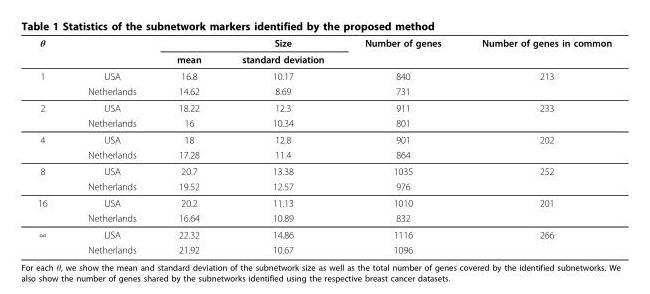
<table><thead><tr><td rowspan="2">θ</td><td rowspan="2"></td><td rowspan="2">mean</td><td rowspan="2">Size standard deviation</td><td rowspan="2">Number of genes</td><td rowspan="2">Number of genes in common</td></tr><tr></tr></thead><tbody><tr><td rowspan="2">1</td><td>USA</td><td>16.8</td><td>10.17</td><td>840</td><td>213</td></tr><tr><td>Netherlands</td><td>14.62</td><td>8.69</td><td>731</td><td></td></tr><tr><td rowspan="2">2</td><td>USA</td><td>18.22</td><td>12.3</td><td>911</td><td>233</td></tr><tr><td>Netherlands</td><td>16</td><td>10.34</td><td>801</td><td></td></tr><tr><td rowspan="2">4</td><td>USA</td><td>18</td><td>12.8</td><td>901</td><td>202</td></tr><tr><td>Netherlands</td><td>17.28</td><td>11.4</td><td>864</td><td></td></tr><tr><td rowspan="2">8</td><td>USA</td><td>20.7</td><td>13.38</td><td>1035</td><td>252</td></tr><tr><td>Netherlands</td><td>19.52</td><td>12.57</td><td>976</td><td></td></tr><tr><td rowspan="2">16</td><td>USA</td><td>20.2</td><td>11.13</td><td>1010</td><td>201</td></tr><tr><td>Netherlands</td><td>16.64</td><td>10.89</td><td>832</td><td></td></tr><tr><td rowspan="2">∞</td><td>USA</td><td>22.32</td><td>14.86</td><td>1116</td><td>266</td></tr><tr><td>Netherlands</td><td>21.92</td><td>10.67</td><td>1096</td><td></td></tr></tbody></table>